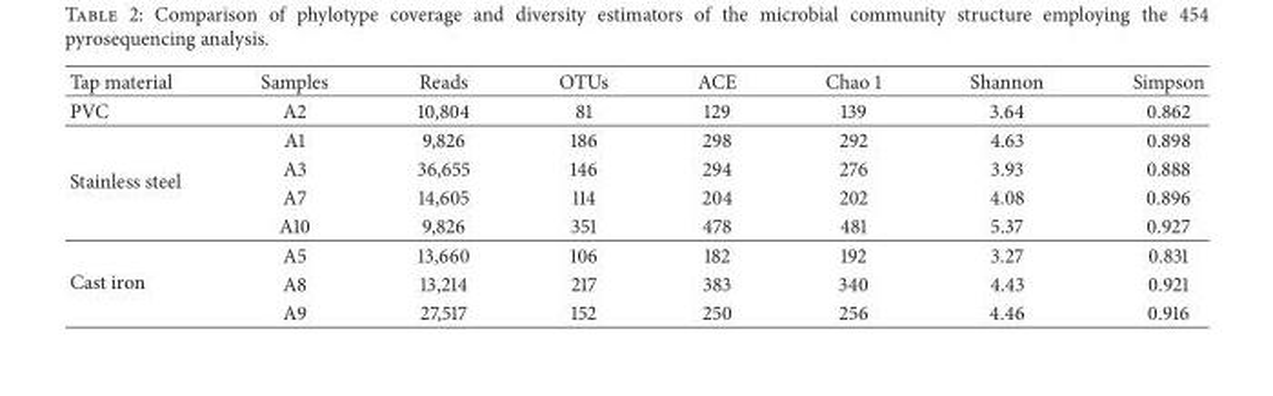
<table><thead><tr><td>Tap material</td><td>Samples</td><td>Reads</td><td>OTUs</td><td>ACE</td><td>Chao 1</td><td>Shannon</td><td>Simpson</td></tr></thead><tbody><tr><td>PVC</td><td>A2</td><td>10,804</td><td>81</td><td>129</td><td>139</td><td>3.64</td><td>0.862</td></tr><tr><td rowspan="4">Stainless steel</td><td>A1</td><td>9,826</td><td>186</td><td>298</td><td>292</td><td>4.63</td><td>0.898</td></tr><tr><td>A3</td><td>36,655</td><td>146</td><td>294</td><td>276</td><td>3.93</td><td>0.888</td></tr><tr><td>A7</td><td>14,605</td><td>114</td><td>204</td><td>202</td><td>4.08</td><td>0.896</td></tr><tr><td>A10</td><td>9,826</td><td>351</td><td>478</td><td>481</td><td>5.37</td><td>0.927</td></tr><tr><td rowspan="3">Cast iron</td><td>A5</td><td>13,660</td><td>106</td><td>182</td><td>192</td><td>3.27</td><td>0.831</td></tr><tr><td>A8</td><td>13,214</td><td>217</td><td>383</td><td>340</td><td>4.43</td><td>0.921</td></tr><tr><td>A9</td><td>27,517</td><td>152</td><td>250</td><td>256</td><td>4.46</td><td>0.916</td></tr></tbody></table>